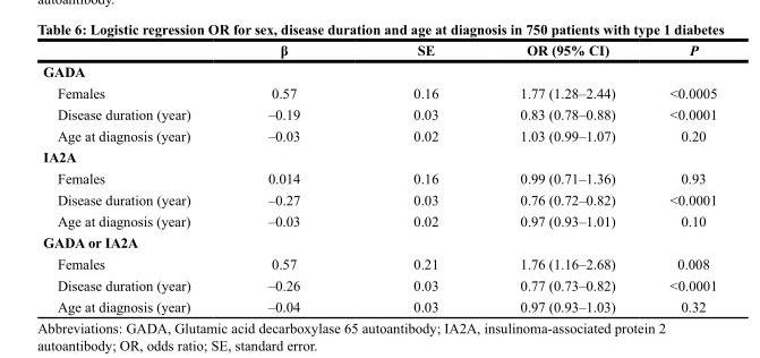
<table><thead><tr><td></td><td>β</td><td>SE</td><td>OR (95% CI)</td><td>P</td></tr></thead><tbody><tr><td colspan="5">GADA</td></tr><tr><td>Females</td><td>0.57</td><td>0.16</td><td>1.77 (1.28–2.44)</td><td>&lt;0.0005</td></tr><tr><td>Disease duration (year)</td><td>–0.19</td><td>0.03</td><td>0.83 (0.78–0.88)</td><td>&lt;0.0001</td></tr><tr><td>Age at diagnosis (year)</td><td>–0.03</td><td>0.02</td><td>1.03 (0.99–1.07)</td><td>0.20</td></tr><tr><td colspan="5">IA2A</td></tr><tr><td>Females</td><td>0.014</td><td>0.16</td><td>0.99 (0.71–1.36)</td><td>0.93</td></tr><tr><td>Disease duration (year)</td><td>–0.27</td><td>0.03</td><td>0.76 (0.72–0.82)</td><td>&lt;0.0001</td></tr><tr><td>Age at diagnosis (year)</td><td>–0.03</td><td>0.02</td><td>0.97 (0.93–1.01)</td><td>0.10</td></tr><tr><td colspan="5">GADA or IA2A</td></tr><tr><td>Females</td><td>0.57</td><td>0.21</td><td>1.76 (1.16–2.68)</td><td>0.008</td></tr><tr><td>Disease duration (year)</td><td>–0.26</td><td>0.03</td><td>0.77 (0.73–0.82)</td><td>&lt;0.0001</td></tr><tr><td>Age at diagnosis (year)</td><td>–0.04</td><td>0.03</td><td>0.97 (0.93–1.03)</td><td>0.32</td></tr></tbody></table>